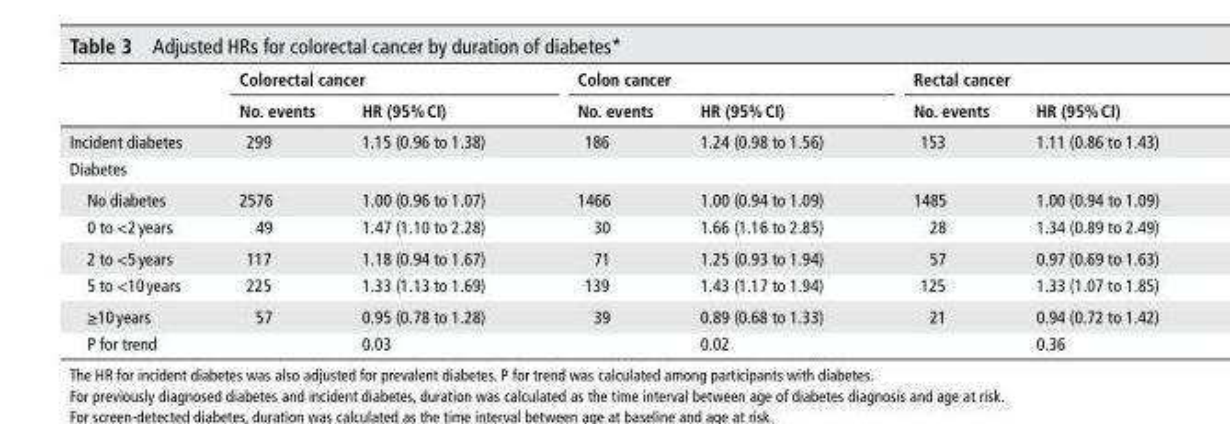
<table><thead><tr><td rowspan="2"></td><td colspan="2">Colorectal cancer</td><td colspan="2">Colon cancer</td><td colspan="2">rectal cancer</td></tr><tr><td>no. events</td><td>hr (95% CI)</td><td>no. events</td><td>hr (95% CI)</td><td>no. events</td><td>hr (95% CI)</td></tr></thead><tbody><tr><td>Incident diabetes</td><td>299</td><td>1.15 (0.96 to 1.38)</td><td>186</td><td>1.24 (0.98 to 1.56)</td><td>153</td><td>1.11 (0.86 to 1.43)</td></tr><tr><td colspan="7">Diabetes</td></tr><tr><td>No diabetes</td><td>2576</td><td>1.00 (0.96 to 1.07)</td><td>1466</td><td>1.00 (0.94 to 1.09)</td><td>1485</td><td>1.00 (0.94 to 1.09)</td></tr><tr><td>0 to &lt;2 years</td><td>49</td><td>1.47 (1.10 to 2.28)</td><td>30</td><td>1.66 (1.16 to 2.85)</td><td>28</td><td>1.34 (0.89 to 2.49)</td></tr><tr><td>2 to &lt;5 years</td><td>117</td><td>1.18 (0.94 to 1.67)</td><td>71</td><td>1.25 (0.93 to 1.94)</td><td>57</td><td>0.97 (0.69 to 1.63)</td></tr><tr><td>5 to &lt;10 years</td><td>225</td><td>1.33 (1.13 to 1.69)</td><td>139</td><td>1.43 (1.17 to 1.94)</td><td>125</td><td>1.33 (1.07 to 1.85)</td></tr><tr><td>≥10 years</td><td>57</td><td>0.95 (0.78 to 1.28)</td><td>39</td><td>0.89 (0.68 to 1.33)</td><td>21</td><td>0.94 (0.72 to 1.42)</td></tr><tr><td>P for trend</td><td></td><td>0.03</td><td></td><td>0.02</td><td></td><td>0.36</td></tr></tbody></table>